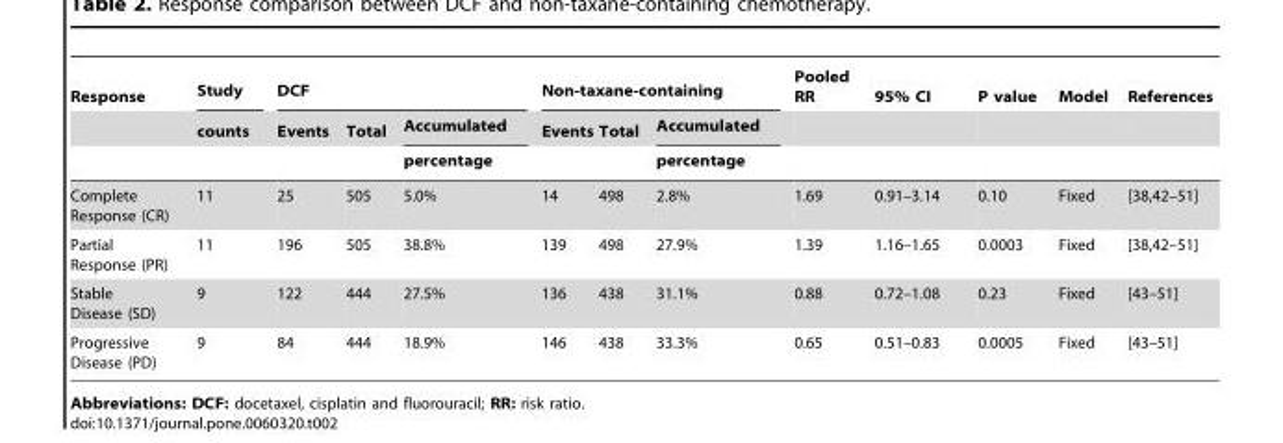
<table><thead><tr><td rowspan="3">Response</td><td rowspan="3">Study counts</td><td colspan="3">DCF</td><td colspan="3">Non-taxane-containing</td><td rowspan="3">Pooled RR</td><td rowspan="3">95% CI</td><td rowspan="3">P value</td><td rowspan="3">Model</td><td rowspan="3">References</td></tr><tr><td rowspan="2">Events</td><td rowspan="2">Total</td><td rowspan="2">Accumulated percentage</td><td rowspan="2">Events</td><td rowspan="2">Total</td><td rowspan="2">Accumulated percentage</td></tr><tr></tr></thead><tbody><tr><td>Complete Response (CR)</td><td>11</td><td>25</td><td>505</td><td>5.0%</td><td>14</td><td>498</td><td>2.8%</td><td>1.69</td><td>0.91–3.14</td><td>0.10</td><td>Fixed</td><td>[38,42–51]</td></tr><tr><td>Partial Response (PR)</td><td>11</td><td>196</td><td>505</td><td>38.8%</td><td>139</td><td>498</td><td>27.9%</td><td>1.39</td><td>1.16–1.65</td><td>0.0003</td><td>Fixed</td><td>[38,42–51]</td></tr><tr><td>Stable Disease (SD)</td><td>9</td><td>122</td><td>444</td><td>27.5%</td><td>136</td><td>438</td><td>31.1%</td><td>0.88</td><td>0.72–1.08</td><td>0.23</td><td>Fixed</td><td>[43–51]</td></tr><tr><td>Progressive Disease (PD)</td><td>9</td><td>84</td><td>444</td><td>18.9%</td><td>146</td><td>438</td><td>33.3%</td><td>0.65</td><td>0.51–0.83</td><td>0.0005</td><td>Fixed</td><td>[43–51]</td></tr></tbody></table>